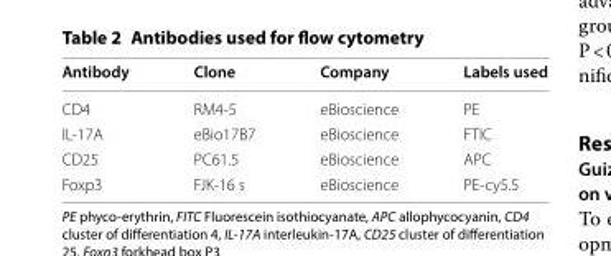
<table><thead><tr><td>Antibody</td><td>Clone</td><td>Company</td><td>Labels used</td></tr></thead><tbody><tr><td>CD4</td><td>RM4‑5</td><td>eBioscience</td><td>PE</td></tr><tr><td>IL‑17A</td><td>eBio17B7</td><td>eBioscience</td><td>FTIC</td></tr><tr><td>CD25</td><td>PC61.5</td><td>eBioscience</td><td>APC</td></tr><tr><td>Foxp3</td><td>FJK‑16 s</td><td>eBioscience</td><td>PE‑cy5.5</td></tr></tbody></table>